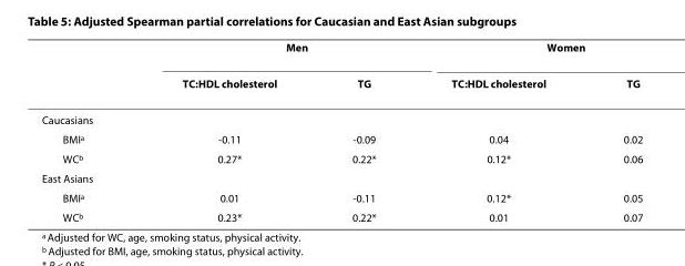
<table><thead><tr><td rowspan="2"></td><td colspan="2">Men</td><td colspan="2">Women</td></tr><tr><td>TC:HDL cholesterol</td><td>TG</td><td>TC:HDL cholesterol</td><td>TG</td></tr></thead><tbody><tr><td colspan="5">Caucasians</td></tr><tr><td>BMI<sup>a</sup></td><td>-0.11</td><td>-0.09</td><td>0.04</td><td>0.02</td></tr><tr><td>WC<sup>b</sup></td><td>0.27*</td><td>0.22*</td><td>0.12*</td><td>0.06</td></tr><tr><td colspan="5">East Asians</td></tr><tr><td>BMI<sup>a</sup></td><td>0.01</td><td>-0.11</td><td>0.12*</td><td>0.05</td></tr><tr><td>WC<sup>b</sup></td><td>0.23*</td><td>0.22*</td><td>0.01</td><td>0.07</td></tr></tbody></table>